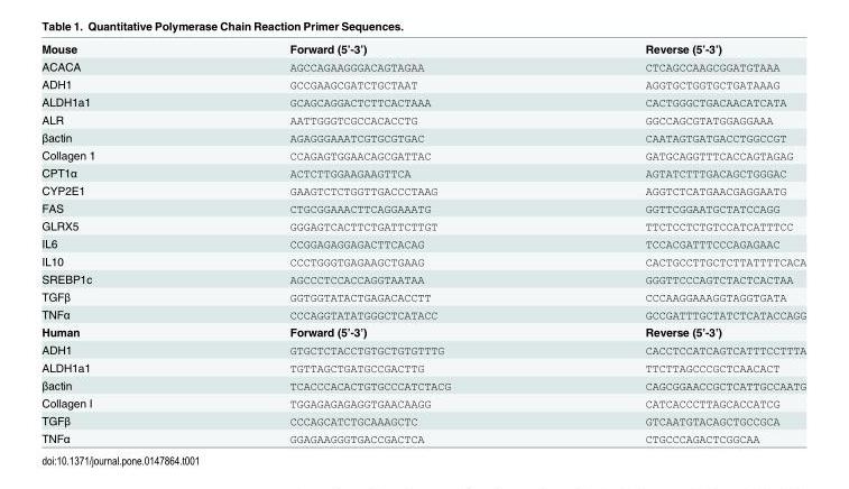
<table><tbody><tr><td>Mouse</td><td>Forward (5’-3’)</td><td>Reverse (5’-3’)</td></tr><tr><td>ACACA</td><td>AGCCAGAAGGGACAGTAGAA</td><td>CTCAGCCAAGCGGATGTAAA</td></tr><tr><td>ADH1</td><td>GCCGAAGCGATCTGCTAAT</td><td>AGGTGCTGGTGCTGATAAAG</td></tr><tr><td>ALDH1a1</td><td>GCAGCAGGACTCTTCACTAAA</td><td>CACTGGGCTGACAACATCATA</td></tr><tr><td>ALR</td><td>AATTGGGTCGCCACACCTG</td><td>GGCCAGCGTATGGAGGAAA</td></tr><tr><td>βactin</td><td>AGAGGGAAATCGTGCGTGAC</td><td>CAATAGTGATGACCTGGCCGT</td></tr><tr><td>Collagen 1</td><td>CCAGAGTGGAACAGCGATTAC</td><td>GATGCAGGTTTCACCAGTAGAG</td></tr><tr><td>CPT1α</td><td>ACTCTTGGAAGAAGTTCA</td><td>AGTATCTTTGACAGCTGGGAC</td></tr><tr><td>CYP2E1</td><td>GAAGTCTCTGGTTGACCCTAAG</td><td>AGGTCTCATGAACGAGGAATG</td></tr><tr><td>FAS</td><td>CTGCGGAAACTTCAGGAAATG</td><td>GGTTCGGAATGCTATCCAGG</td></tr><tr><td>GLRX5</td><td>GGGAGTCACTTCTGATTCTTGT</td><td>TTCTCCTCTGTCCATCATTTCC</td></tr><tr><td>IL6</td><td>CCGGAGAGGAGACTTCACAG</td><td>TCCACGATTTCCCAGAGAAC</td></tr><tr><td>IL10</td><td>CCCTGGGTGAGAAGCTGAAG</td><td>CACTGCCTTGCTCTTATTTTCACA</td></tr><tr><td>SREBP1c</td><td>AGCCCTCCACCAGGTAATAA</td><td>GGGTTCCCAGTCTACTCACTAA</td></tr><tr><td>TGFβ</td><td>GGTGGTATACTGAGACACCTT</td><td>CCCAAGGAAAGGTAGGTGATA</td></tr><tr><td>TNFα</td><td>CCCAGGTATATGGGCTCATACC</td><td>GCCGATTTGCTATCTCATACCAGG</td></tr><tr><td>Human</td><td>Forward (5’-3’)</td><td>Reverse (5’-3’)</td></tr><tr><td>ADH1</td><td>GTGCTCTACCTGTGCTGTGTTTG</td><td>CACCTCCATCAGTCATTTCCTTTA</td></tr><tr><td>ALDH1a1</td><td>TGTTAGCTGATGCCGACTTG</td><td>TTCTTAGCCCGCTCAACACT</td></tr><tr><td>βactin</td><td>TCACCCACACTGTGCCCATCTACG</td><td>CAGCGGAACCGCTCATTGCCAATG</td></tr><tr><td>Collagen I</td><td>TGGAGAGAGAGGTGAACAAGG</td><td>CATCACCCTTAGCACCATCG</td></tr><tr><td>TGFβ</td><td>CCCAGCATCTGCAAAGCTC</td><td>GTCAATGTACAGCTGCCGCA</td></tr><tr><td>TNFα</td><td>GGAGAAGGGTGACCGACTCA</td><td>CTGCCCAGACTCGGCAA</td></tr></tbody></table>